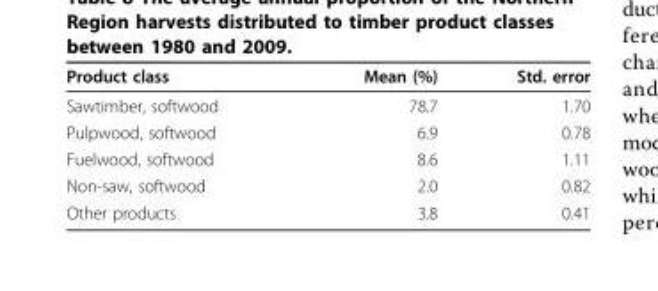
<table><thead><tr><td>Product class</td><td>Mean (%)</td><td>Std. error</td></tr></thead><tbody><tr><td>Sawtimber, softwood</td><td>78.7</td><td>1.70</td></tr><tr><td>Pulpwood, softwood</td><td>6.9</td><td>0.78</td></tr><tr><td>Fuelwood, softwood</td><td>8.6</td><td>1.11</td></tr><tr><td>Non-saw, softwood</td><td>2.0</td><td>0.82</td></tr><tr><td>Other products</td><td>3.8</td><td>0.41</td></tr></tbody></table>